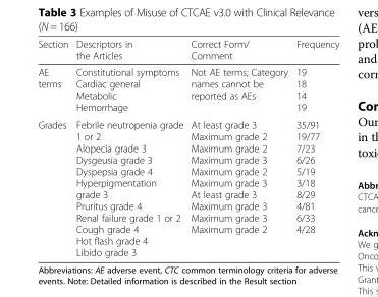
<table><thead><tr><td>Section</td><td>Descriptors in the Articles</td><td>Correct Form/ Comment</td><td>Frequency</td></tr></thead><tbody><tr><td>AE terms</td><td>Constitutional symptoms Cardiac general Metabolic Hemorrhage</td><td>Not AE terms; Category names cannot be reported as AEs</td><td>19 18 14 19</td></tr><tr><td>Grades</td><td>Febrile neutropenia grade 1 or 2 Alopecia grade 3 Dysgeusia grade 3 Dyspepsia grade 4 Hyperpigmentation grade 3 Pruritus grade 4 Renal failure grade 1 or 2 Cough grade 4 Hot flash grade 4 Libido grade 3</td><td>At least grade 3 Maximum grade 2 Maximum grade 2 Maximum grade 3 Maximum grade 2 Maximum grade 3 At least grade 3 Maximum grade 3 Maximum grade 3 Maximum grade 2</td><td>35/91 19/77 7/23 6/26 5/19 3/18 8/29 4/81 6/33 4/28</td></tr></tbody></table>